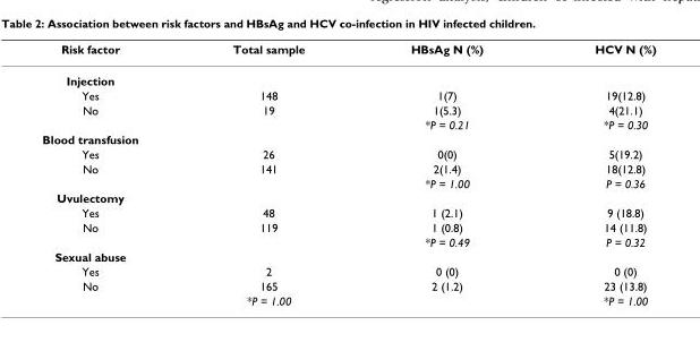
<table><thead><tr><td>Risk factor</td><td>Total sample</td><td>HBsAg N (%)</td><td>HCV N (%)</td></tr></thead><tbody><tr><td colspan="4">Injection</td></tr><tr><td>Yes</td><td>148</td><td>1(7)</td><td>19(12.8)</td></tr><tr><td rowspan="2">No</td><td>19</td><td>1(5.3)</td><td>4(21.1)</td></tr><tr><td></td><td>*P = 0.21</td><td>*P = 0.30</td></tr><tr><td colspan="4">Blood transfusion</td></tr><tr><td>Yes</td><td>26</td><td>0(0)</td><td>5(19.2)</td></tr><tr><td rowspan="2">No</td><td>141</td><td>2(1.4)</td><td>18(12.8)</td></tr><tr><td></td><td>*P = 1.00</td><td>P = 0.36</td></tr><tr><td colspan="4">Uvulectomy</td></tr><tr><td>Yes</td><td>48</td><td>1 (2.1)</td><td>9 (18.8)</td></tr><tr><td rowspan="2">No</td><td>119</td><td>1 (0.8)</td><td>14 (11.8)</td></tr><tr><td></td><td>*P = 0.49</td><td>P = 0.32</td></tr><tr><td colspan="4">Sexual abuse</td></tr><tr><td>Yes</td><td>2</td><td>0 (0)</td><td>0 (0)</td></tr><tr><td rowspan="2">No</td><td>165</td><td>2 (1.2)</td><td>23 (13.8)</td></tr><tr><td>*P = 1.00</td><td></td><td>*P = 1.00</td></tr></tbody></table>